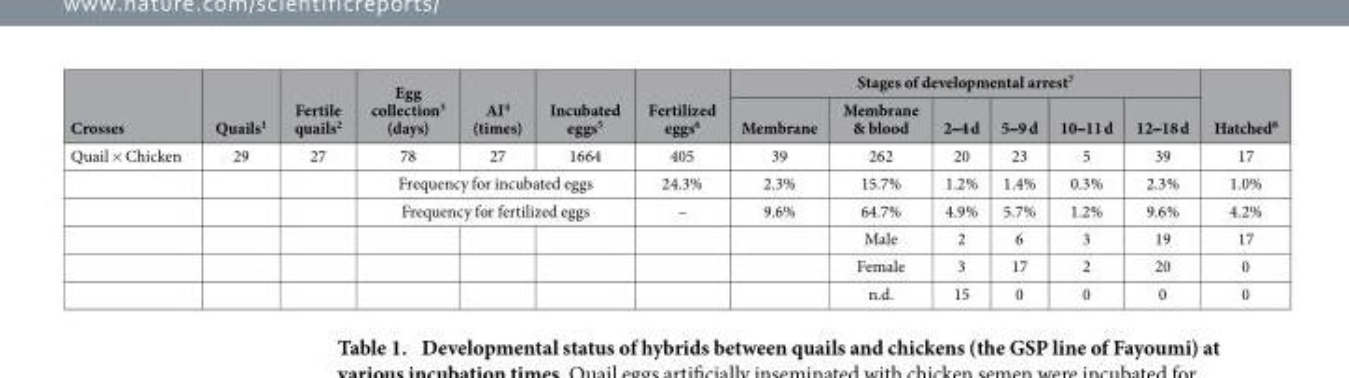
<table><thead><tr><td rowspan="2">Crosses</td><td rowspan="2">Quails<sup>1</sup></td><td rowspan="2">Fertile quails<sup>2</sup></td><td rowspan="2">Egg collection<sup>3</sup> (days)</td><td rowspan="2">AI<sup>4</sup> (times)</td><td rowspan="2">Incubated eggs<sup>5</sup></td><td rowspan="2">Fertilized eggs<sup>6</sup></td><td colspan="6">Stages of developmental arrest<sup>7</sup></td><td rowspan="2">Hatched<sup>8</sup></td></tr><tr><td>Membrane</td><td>Membrane &amp; blood</td><td>2‒4 d</td><td>5‒9 d</td><td>10‒11 d</td><td>12‒18 d</td></tr></thead><tbody><tr><td rowspan="6">Quail × Chicken</td><td>29</td><td>27</td><td>78</td><td>27</td><td>1664</td><td>405</td><td>39</td><td>262</td><td>20</td><td>23</td><td>5</td><td>39</td><td>17</td></tr><tr><td></td><td></td><td colspan="3">Frequency for incubated eggs</td><td>24.3%</td><td>2.3%</td><td>15.7%</td><td>1.2%</td><td>1.4%</td><td>0.3%</td><td>2.3%</td><td>1.0%</td></tr><tr><td></td><td></td><td colspan="3">Frequency for fertilized eggs</td><td>–</td><td>9.6%</td><td>64.7%</td><td>4.9%</td><td>5.7%</td><td>1.2%</td><td>9.6%</td><td>4.2%</td></tr><tr><td></td><td></td><td></td><td></td><td></td><td></td><td></td><td>Male</td><td>2</td><td>6</td><td>3</td><td>19</td><td>17</td></tr><tr><td></td><td></td><td></td><td></td><td></td><td></td><td></td><td>Female</td><td>3</td><td>17</td><td>2</td><td>20</td><td>0</td></tr><tr><td></td><td></td><td></td><td></td><td></td><td></td><td></td><td>n.d.</td><td>15</td><td>0</td><td>0</td><td>0</td><td>0</td></tr></tbody></table>